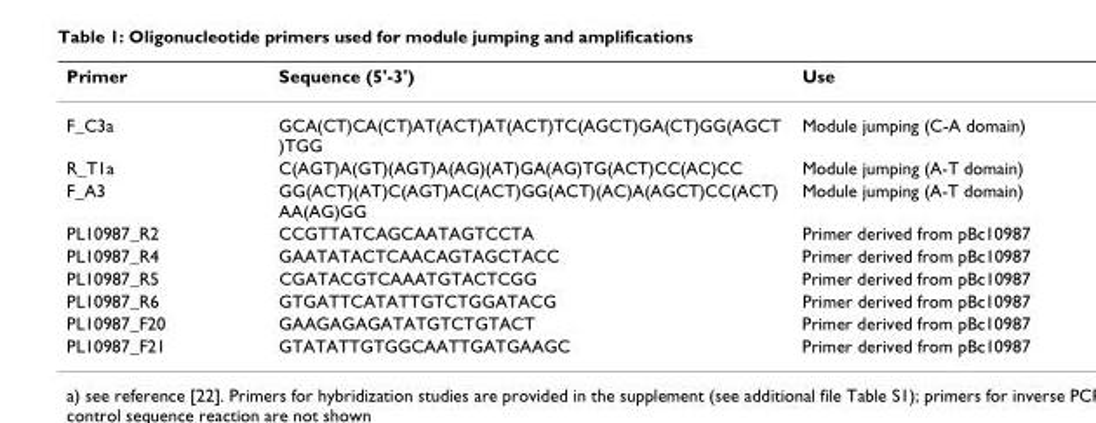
<table><thead><tr><td>Primer</td><td>Sequence (5&#x27;-3&#x27;)</td><td>Use</td></tr></thead><tbody><tr><td>F_C3a</td><td>GCA(CT)CA(CT)AT(ACT)AT(ACT)TC(AGCT)GA(CT)GG(AGCT )TGG</td><td>Module jumping (C-A domain)</td></tr><tr><td>R_T1a</td><td>C(AGT)A(GT)(AGT)A(AG)(AT)GA(AG)TG(ACT)CC(AC)CC</td><td>Module jumping (A-T domain)</td></tr><tr><td>F_A3</td><td>GG(ACT)(AT)C(AGT)AC(ACT)GG(ACT)(AC)A(AGCT)CC(ACT) AA(AG)GG</td><td>Module jumping (A-T domain)</td></tr><tr><td>PL10987_R2</td><td>CCGTTATCAGCAATAGTCCTA</td><td>Primer derived from pBc10987</td></tr><tr><td>PL10987_R4</td><td>GAATATACTCAACAGTAGCTACC</td><td>Primer derived from pBc10987</td></tr><tr><td>PL10987_R5</td><td>CGATACGTCAAATGTACTCGG</td><td>Primer derived from pBc10987</td></tr><tr><td>PL10987_R6</td><td>GTGATTCATATTGTCTGGATACG</td><td>Primer derived from pBc10987</td></tr><tr><td>PL10987_F20</td><td>GAAGAGAGATATGTCTGTACT</td><td>Primer derived from pBc10987</td></tr><tr><td>PL10987_F21</td><td>GTATATTGTGGCAATTGATGAAGC</td><td>Primer derived from pBc10987</td></tr></tbody></table>